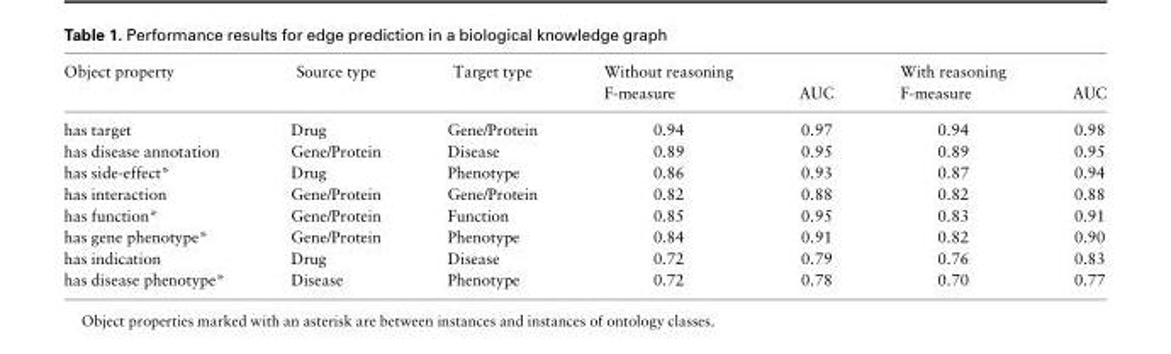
<table><thead><tr><td rowspan="2">Object property</td><td rowspan="2">Source type</td><td rowspan="2">Target type</td><td rowspan="2">Without reasoning F-measure</td><td rowspan="2">AUC</td><td rowspan="2">With reasoning F-measure</td><td rowspan="2">AUC</td></tr><tr></tr></thead><tbody><tr><td>has target</td><td>Drug</td><td>Gene/Protein</td><td>0.94</td><td>0.97</td><td>0.94</td><td>0.98</td></tr><tr><td>has disease annotation</td><td>Gene/Protein</td><td>Disease</td><td>0.89</td><td>0.95</td><td>0.89</td><td>0.95</td></tr><tr><td>has side-effect*</td><td>Drug</td><td>Phenotype</td><td>0.86</td><td>0.93</td><td>0.87</td><td>0.94</td></tr><tr><td>has interaction</td><td>Gene/Protein</td><td>Gene/Protein</td><td>0.82</td><td>0.88</td><td>0.82</td><td>0.88</td></tr><tr><td>has function*</td><td>Gene/Protein</td><td>Function</td><td>0.85</td><td>0.95</td><td>0.83</td><td>0.91</td></tr><tr><td>has gene phenotype*</td><td>Gene/Protein</td><td>Phenotype</td><td>0.84</td><td>0.91</td><td>0.82</td><td>0.90</td></tr><tr><td>has indication</td><td>Drug</td><td>Disease</td><td>0.72</td><td>0.79</td><td>0.76</td><td>0.83</td></tr><tr><td>has disease phenotype*</td><td>Disease</td><td>Phenotype</td><td>0.72</td><td>0.78</td><td>0.70</td><td>0.77</td></tr></tbody></table>